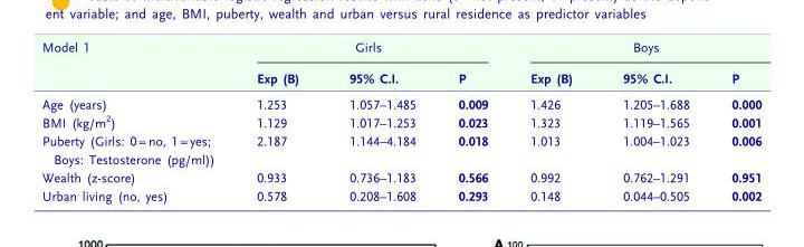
<table><thead><tr><td rowspan="2">Model 1</td><td colspan="3">Girls</td><td colspan="3">Boys</td></tr><tr><td>Exp (B)</td><td>95% C.I.</td><td>P</td><td>Exp (B)</td><td>95% C.I.</td><td>P</td></tr></thead><tbody><tr><td>Age (years)</td><td>1.253</td><td>1.057–1.485</td><td>0.009</td><td>1.426</td><td>1.205–1.688</td><td>0.000</td></tr><tr><td>BMI (kg/m<sup>2</sup>)</td><td>1.129</td><td>1.017–1.253</td><td>0.023</td><td>1.323</td><td>1.119–1.565</td><td>0.001</td></tr><tr><td>Puberty (Girls: 0 = no, 1 = yes; Boys: Testosterone (pg/ml))</td><td>2.187</td><td>1.144–4.184</td><td>0.018</td><td>1.013</td><td>1.004–1.023</td><td>0.006</td></tr><tr><td>Wealth (z-score)</td><td>0.933</td><td>0.736–1.183</td><td>0.566</td><td>0.992</td><td>0.762–1.291</td><td>0.951</td></tr><tr><td>Urban living (no, yes)</td><td>0.578</td><td>0.208–1.608</td><td>0.293</td><td>0.148</td><td>0.044–0.505</td><td>0.002</td></tr></tbody></table>